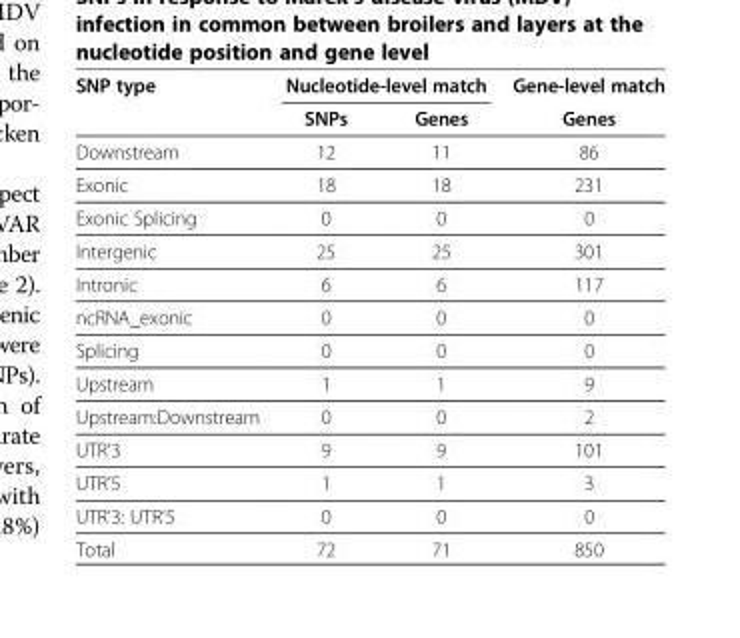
<table><thead><tr><td rowspan="2">SNP type</td><td colspan="2">Nucleotide-level match</td><td rowspan="2">Gene-level match Genes</td></tr><tr><td>SNPs</td><td>Genes</td></tr></thead><tbody><tr><td>Downstream</td><td>12</td><td>11</td><td>86</td></tr><tr><td>Exonic</td><td>18</td><td>18</td><td>231</td></tr><tr><td>Exonic Splicing</td><td>0</td><td>0</td><td>0</td></tr><tr><td>Intergenic</td><td>25</td><td>25</td><td>301</td></tr><tr><td>Intronic</td><td>6</td><td>6</td><td>117</td></tr><tr><td>ncRNA_exonic</td><td>0</td><td>0</td><td>0</td></tr><tr><td>Splicing</td><td>0</td><td>0</td><td>0</td></tr><tr><td>Upstream</td><td>1</td><td>1</td><td>9</td></tr><tr><td>Upstream:Downstream</td><td>0</td><td>0</td><td>2</td></tr><tr><td>UTR’3</td><td>9</td><td>9</td><td>101</td></tr><tr><td>UTR’5</td><td>1</td><td>1</td><td>3</td></tr><tr><td>UTR’3: UTR’5</td><td>0</td><td>0</td><td>0</td></tr><tr><td>Total</td><td>72</td><td>71</td><td>850</td></tr></tbody></table>